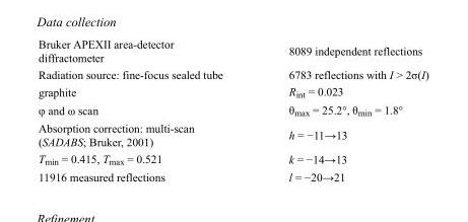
<table><tbody><tr><td>Bruker APEXII area-detector diffractometer</td><td>8089 independent reflections</td></tr><tr><td>Radiation source: fine-focus sealed tube</td><td>6783 reflections with I &gt; 2σ(I)</td></tr><tr><td>graphite</td><td>R<sub>int</sub> = 0.023</td></tr><tr><td>φ and ω scan</td><td>θ<sub>max</sub> = 25.2°, θ<sub>min</sub> = 1.8°</td></tr><tr><td>Absorption correction: multi-scan (SADABS; Bruker, 2001)</td><td>h = −11→13</td></tr><tr><td>T<sub>min</sub> = 0.415, T<sub>max</sub> = 0.521</td><td>k = −14→13</td></tr><tr><td>11916 measured reflections</td><td>l = −20→21</td></tr></tbody></table>